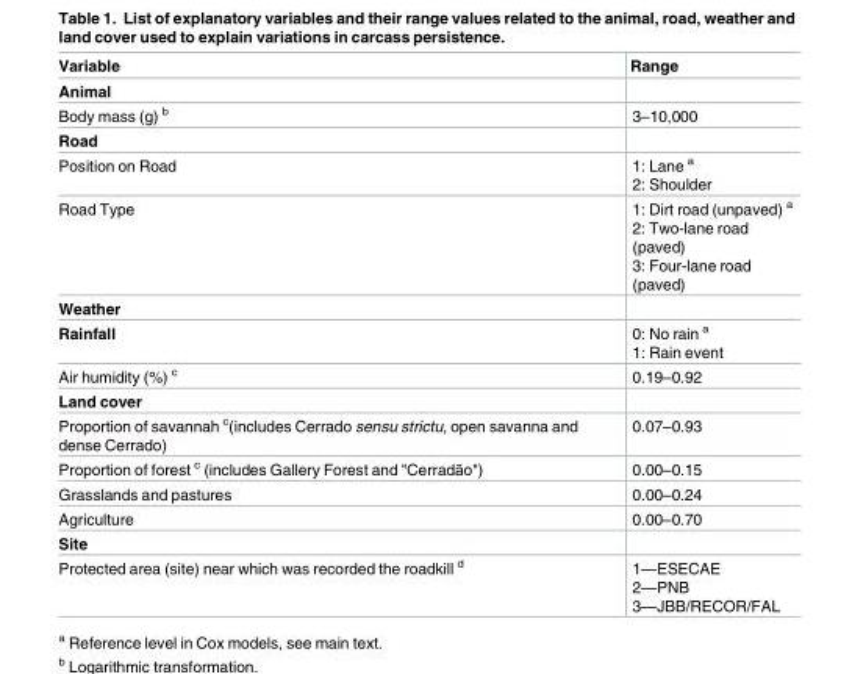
<table><thead><tr><td>Variable</td><td>Range</td></tr></thead><tbody><tr><td colspan="2">Animal</td></tr><tr><td>Body mass (g) <sup>b</sup></td><td>3–10,000</td></tr><tr><td colspan="2">Road</td></tr><tr><td>Position on Road</td><td>1: Lane <sup>a</sup> 2: Shoulder</td></tr><tr><td>Road Type</td><td>1: Dirt road (unpaved) <sup>a</sup> 2: Two-lane road (paved) 3: Four-lane road (paved)</td></tr><tr><td colspan="2">Weather</td></tr><tr><td>Rainfall</td><td>0: No rain <sup>a</sup> 1: Rain event</td></tr><tr><td>Air humidity (%) <sup>c</sup></td><td>0.19–0.92</td></tr><tr><td colspan="2">Land cover</td></tr><tr><td>Proportion of savannah <sup>c</sup>(includes Cerrado sensu strictu, open savanna and dense Cerrado)</td><td>0.07–0.93</td></tr><tr><td>Proportion of forest <sup>c</sup> (includes Gallery Forest and &quot;Cerradão&quot;)</td><td>0.00–0.15</td></tr><tr><td>Grasslands and pastures</td><td>0.00–0.24</td></tr><tr><td>Agriculture</td><td>0.00–0.70</td></tr><tr><td colspan="2">Site</td></tr><tr><td>Protected area (site) near which was recorded the roadkill <sup>d</sup></td><td>1—ESECAE 2—PNB 3—JBB/RECOR/FAL</td></tr></tbody></table>